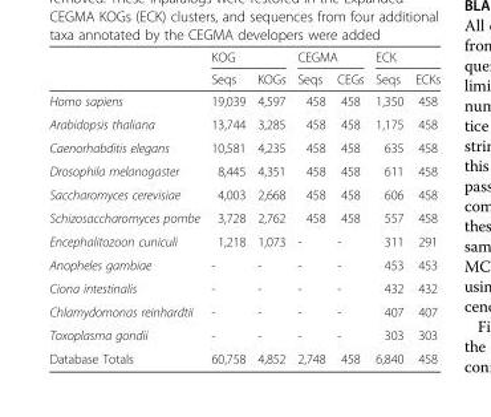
<table><thead><tr><td rowspan="2"></td><td colspan="2">KOG</td><td colspan="2">CEGMA</td><td colspan="2">ECK</td></tr><tr><td>Seqs</td><td>KOGs</td><td>Seqs</td><td>CEGs</td><td>Seqs</td><td>ECKs</td></tr></thead><tbody><tr><td>Homo sapiens</td><td>19,039</td><td>4,597</td><td>458</td><td>458</td><td>1,350</td><td>458</td></tr><tr><td>Arabidopsis thaliana</td><td>13,744</td><td>3,285</td><td>458</td><td>458</td><td>1,175</td><td>458</td></tr><tr><td>Caenorhabditis elegans</td><td>10,581</td><td>4,235</td><td>458</td><td>458</td><td>635</td><td>458</td></tr><tr><td>Drosophila melanogaster</td><td>8,445</td><td>4,351</td><td>458</td><td>458</td><td>611</td><td>458</td></tr><tr><td>Saccharomyces cerevisiae</td><td>4,003</td><td>2,668</td><td>458</td><td>458</td><td>606</td><td>458</td></tr><tr><td>Schizosaccharomyces pombe</td><td>3,728</td><td>2,762</td><td>458</td><td>458</td><td>557</td><td>458</td></tr><tr><td>Encephalitozoon cuniculi</td><td>1,218</td><td>1,073</td><td>-</td><td>-</td><td>311</td><td>291</td></tr><tr><td>Anopheles gambiae</td><td>-</td><td>-</td><td>-</td><td>-</td><td>453</td><td>453</td></tr><tr><td>Ciona intestinalis</td><td>-</td><td>-</td><td>-</td><td>-</td><td>432</td><td>432</td></tr><tr><td>Chlamydomonas reinhardtii</td><td>-</td><td>-</td><td>-</td><td>-</td><td>407</td><td>407</td></tr><tr><td>Toxoplasma gondii</td><td>-</td><td>-</td><td>-</td><td>-</td><td>303</td><td>303</td></tr><tr><td>Database Totals</td><td>60,758</td><td>4,852</td><td>2,748</td><td>458</td><td>6,840</td><td>458</td></tr></tbody></table>